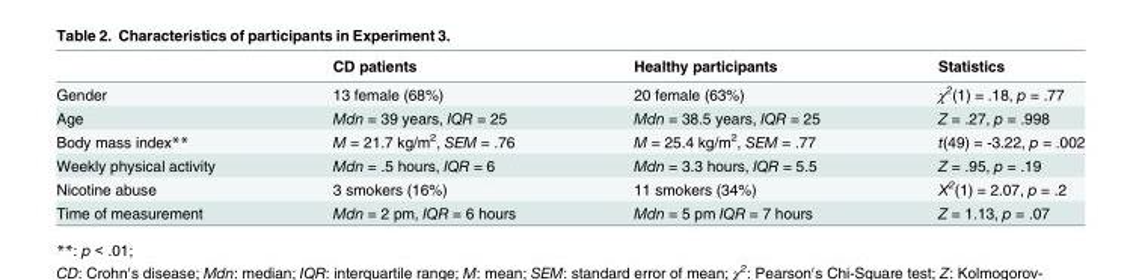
<table><thead><tr><td></td><td>CD patients</td><td>Healthy participants</td><td>Statistics</td></tr></thead><tbody><tr><td>Gender</td><td>13 female (68%)</td><td>20 female (63%)</td><td>χ<sup>2</sup>(1) = .18, p = .77</td></tr><tr><td>Age</td><td>Mdn = 39 years, IQR = 25</td><td>Mdn = 38.5 years, IQR = 25</td><td>Z = .27, p = .998</td></tr><tr><td>Body mass index**</td><td>M = 21.7 kg/m<sup>2</sup>, SEM = .76</td><td>M = 25.4 kg/m<sup>2</sup>, SEM = .77</td><td>t(49) = -3.22, p = .002</td></tr><tr><td>Weekly physical activity</td><td>Mdn = .5 hours, IQR = 6</td><td>Mdn = 3.3 hours, IQR = 5.5</td><td>Z = .95, p = .19</td></tr><tr><td>Nicotine abuse</td><td>3 smokers (16%)</td><td>11 smokers (34%)</td><td>Χ<sup>2</sup>(1) = 2.07, p = .2</td></tr><tr><td>Time of measurement</td><td>Mdn = 2 pm, IQR = 6 hours</td><td>Mdn = 5 pm IQR = 7 hours</td><td>Z = 1.13, p = .07</td></tr></tbody></table>